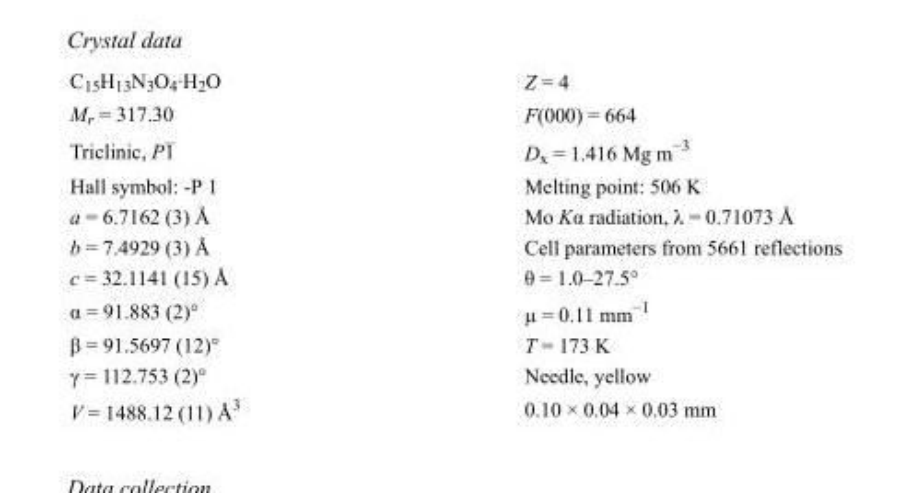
<table><tbody><tr><td>C<sub>15</sub>H<sub>13</sub>N<sub>3</sub>O<sub>4</sub>·H<sub>2</sub>O</td><td>Z = 4</td></tr><tr><td>M<sub>r</sub> = 317.30</td><td>F(000) = 664</td></tr><tr><td>Triclinic, P1</td><td>D<sub>x</sub> = 1.416 Mg m<sup>−3</sup></td></tr><tr><td>Hall symbol: -P 1</td><td>Melting point: 506 K</td></tr><tr><td>a = 6.7162 (3) Å</td><td>Mo Kα radiation, λ = 0.71073 Å</td></tr><tr><td>b = 7.4929 (3) Å</td><td>Cell parameters from 5661 reflections</td></tr><tr><td>c = 32.1141 (15) Å</td><td>θ = 1.0–27.5°</td></tr><tr><td>α = 91.883 (2)°</td><td>µ = 0.11 mm<sup>−1</sup></td></tr><tr><td>β = 91.5697 (12)°</td><td>T = 173 K</td></tr><tr><td>γ = 112.753 (2)°</td><td>Needle, yellow</td></tr><tr><td>V = 1488.12 (11) Å<sup>3</sup></td><td>0.10 × 0.04 × 0.03 mm</td></tr></tbody></table>